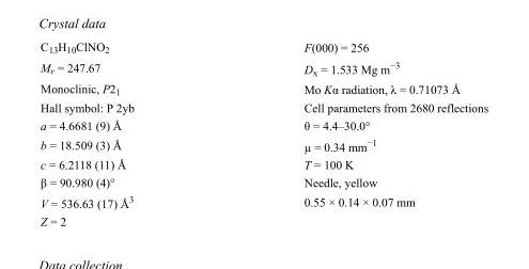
<table><tbody><tr><td>C<sub>13</sub>H<sub>10</sub>ClNO<sub>2</sub></td><td>F(000) = 256</td></tr><tr><td>M<sub>r</sub> = 247.67</td><td>D<sub>x</sub> = 1.533 Mg m<sup>−3</sup></td></tr><tr><td>Monoclinic, P2<sub>1</sub></td><td>Mo Kα radiation, λ = 0.71073 Å</td></tr><tr><td>Hall symbol: P 2yb</td><td>Cell parameters from 2680 reflections</td></tr><tr><td>a = 4.6681 (9) Å</td><td>θ = 4.4–30.0°</td></tr><tr><td>b = 18.509 (3) Å</td><td>µ = 0.34 mm<sup>−1</sup></td></tr><tr><td>c = 6.2118 (11) Å</td><td>T = 100 K</td></tr><tr><td>β = 90.980 (4)°</td><td>Needle, yellow</td></tr><tr><td>V = 536.63 (17) Å<sup>3</sup></td><td>0.55 × 0.14 × 0.07 mm</td></tr><tr><td>Z = 2</td><td></td></tr></tbody></table>